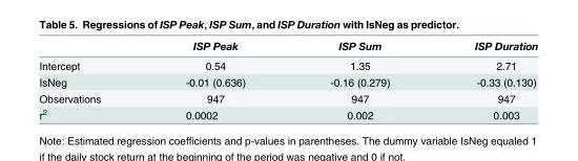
<table><thead><tr><td></td><td>ISP Peak</td><td>ISP Sum</td><td>ISP Duration</td></tr></thead><tbody><tr><td>Intercept</td><td>0.54</td><td>1.35</td><td>2.71</td></tr><tr><td>IsNeg</td><td>-0.01 (0.636)</td><td>-0.16 (0.279)</td><td>-0.33 (0.130)</td></tr><tr><td>Observations</td><td>947</td><td>947</td><td>947</td></tr><tr><td>r<sup>2</sup></td><td>0.0002</td><td>0.002</td><td>0.003</td></tr></tbody></table>